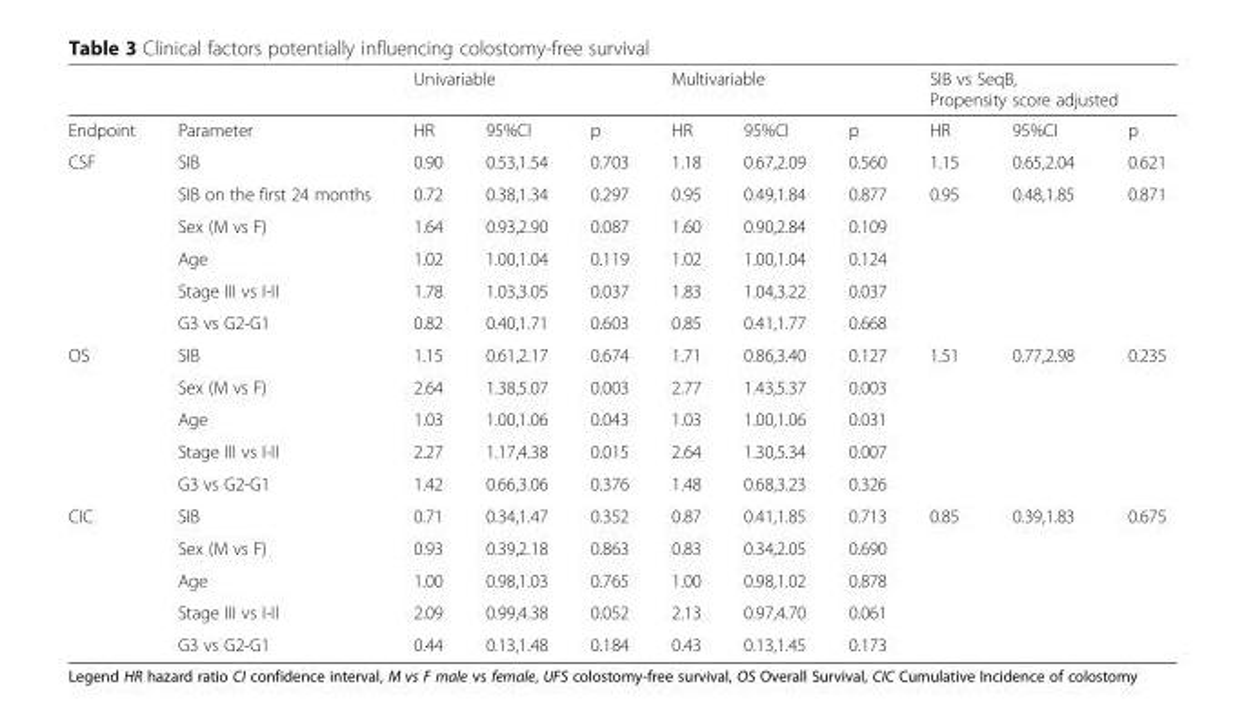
<table><thead><tr><td rowspan="2">Endpoint</td><td rowspan="2">Parameter</td><td colspan="3">Univariable</td><td colspan="3">Multivariable</td><td colspan="3">SIB vs SeqB, Propensity score adjusted</td></tr><tr><td>HR</td><td>95%CI</td><td>p</td><td>HR</td><td>95%CI</td><td>p</td><td>HR</td><td>95%CI</td><td>p</td></tr></thead><tbody><tr><td rowspan="6">CSF</td><td>SIB</td><td>0.90</td><td>0.53,1.54</td><td>0.703</td><td>1.18</td><td>0.67,2.09</td><td>0.560</td><td>1.15</td><td>0.65,2.04</td><td>0.621</td></tr><tr><td>SIB on the first 24 months</td><td>0.72</td><td>0.38,1.34</td><td>0.297</td><td>0.95</td><td>0.49,1.84</td><td>0.877</td><td>0.95</td><td>0.48,1.85</td><td>0.871</td></tr><tr><td>Sex (M vs F)</td><td>1.64</td><td>0.93,2.90</td><td>0.087</td><td>1.60</td><td>0.90,2.84</td><td>0.109</td><td></td><td></td><td></td></tr><tr><td>Age</td><td>1.02</td><td>1.00,1.04</td><td>0.119</td><td>1.02</td><td>1.00,1.04</td><td>0.124</td><td></td><td></td><td></td></tr><tr><td>Stage III vs I-II</td><td>1.78</td><td>1.03,3.05</td><td>0.037</td><td>1.83</td><td>1.04,3.22</td><td>0.037</td><td></td><td></td><td></td></tr><tr><td>G3 vs G2-G1</td><td>0.82</td><td>0.40,1.71</td><td>0.603</td><td>0.85</td><td>0.41,1.77</td><td>0.668</td><td></td><td></td><td></td></tr><tr><td rowspan="5">OS</td><td>SIB</td><td>1.15</td><td>0.61,2.17</td><td>0.674</td><td>1.71</td><td>0.86,3.40</td><td>0.127</td><td>1.51</td><td>0.77,2.98</td><td>0.235</td></tr><tr><td>Sex (M vs F)</td><td>2.64</td><td>1.38,5.07</td><td>0.003</td><td>2.77</td><td>1.43,5.37</td><td>0.003</td><td></td><td></td><td></td></tr><tr><td>Age</td><td>1.03</td><td>1.00,1.06</td><td>0.043</td><td>1.03</td><td>1.00,1.06</td><td>0.031</td><td></td><td></td><td></td></tr><tr><td>Stage III vs I-II</td><td>2.27</td><td>1.17,4.38</td><td>0.015</td><td>2.64</td><td>1.30,5.34</td><td>0.007</td><td></td><td></td><td></td></tr><tr><td>G3 vs G2-G1</td><td>1.42</td><td>0.66,3.06</td><td>0.376</td><td>1.48</td><td>0.68,3.23</td><td>0.326</td><td></td><td></td><td></td></tr><tr><td rowspan="5">CIC</td><td>SIB</td><td>0.71</td><td>0.34,1.47</td><td>0.352</td><td>0.87</td><td>0.41,1.85</td><td>0.713</td><td>0.85</td><td>0.39,1.83</td><td>0.675</td></tr><tr><td>Sex (M vs F)</td><td>0.93</td><td>0.39,2.18</td><td>0.863</td><td>0.83</td><td>0.34,2.05</td><td>0.690</td><td></td><td></td><td></td></tr><tr><td>Age</td><td>1.00</td><td>0.98,1.03</td><td>0.765</td><td>1.00</td><td>0.98,1.02</td><td>0.878</td><td></td><td></td><td></td></tr><tr><td>Stage III vs I-II</td><td>2.09</td><td>0.99,4.38</td><td>0.052</td><td>2.13</td><td>0.97,4.70</td><td>0.061</td><td></td><td></td><td></td></tr><tr><td>G3 vs G2-G1</td><td>0.44</td><td>0.13,1.48</td><td>0.184</td><td>0.43</td><td>0.13,1.45</td><td>0.173</td><td></td><td></td><td></td></tr></tbody></table>